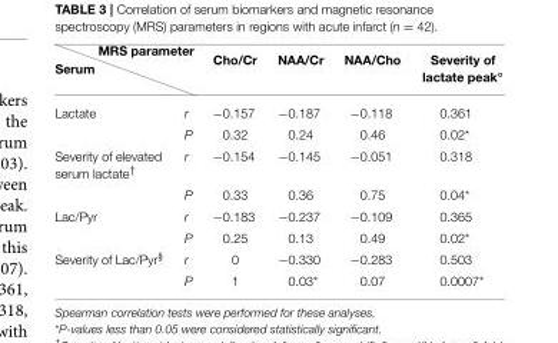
<table><thead><tr><td>Serum</td><td></td><td>Cho/Cr</td><td>NAA/Cr</td><td>NAA/Cho</td><td>Severity of lactate peak◦</td></tr></thead><tbody><tr><td rowspan="2">Lactate</td><td>r</td><td>−0.157</td><td>−0.187</td><td>−0.118</td><td>0.361</td></tr><tr><td>P</td><td>0.32</td><td>0.24</td><td>0.46</td><td>0.02*</td></tr><tr><td rowspan="2">Severity of elevated serum lactate<sup>†</sup></td><td>r</td><td>−0.154</td><td>−0.145</td><td>−0.051</td><td>0.318</td></tr><tr><td>P</td><td>0.33</td><td>0.36</td><td>0.75</td><td>0.04*</td></tr><tr><td rowspan="2">Lac/Pyr</td><td>r</td><td>−0.183</td><td>−0.237</td><td>−0.109</td><td>0.365</td></tr><tr><td>P</td><td>0.25</td><td>0.13</td><td>0.49</td><td>0.02*</td></tr><tr><td rowspan="2">Severity of Lac/Pyr<sup>§</sup></td><td>r</td><td>0</td><td>−0.330</td><td>−0.283</td><td>0.503</td></tr><tr><td>P</td><td>1</td><td>0.03*</td><td>0.07</td><td>0.0007*</td></tr></tbody></table>